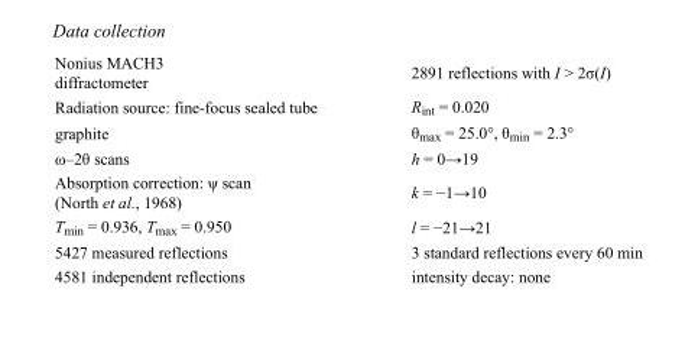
<table><tbody><tr><td>Nonius MACH3 diffractometer</td><td>2891 reflections with I &gt; 2σ(I)</td></tr><tr><td>Radiation source: fine-focus sealed tube</td><td>R<sub>int</sub> = 0.020</td></tr><tr><td>graphite</td><td>θ<sub>max</sub> = 25.0°, θ<sub>min</sub> = 2.3°</td></tr><tr><td>ω–2θ scans</td><td>h = 0→19</td></tr><tr><td>Absorption correction: ψ scan (North et al., 1968)</td><td>k = −1→10</td></tr><tr><td>T<sub>min</sub> = 0.936, T<sub>max</sub> = 0.950</td><td>l = −21→21</td></tr><tr><td>5427 measured reflections</td><td>3 standard reflections every 60 min</td></tr><tr><td>4581 independent reflections</td><td>intensity decay: none</td></tr></tbody></table>